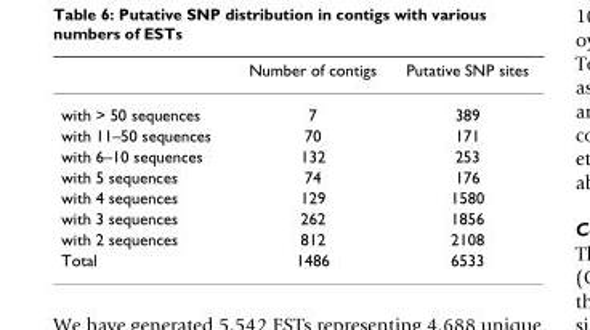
<table><thead><tr><td></td><td>Number of contigs</td><td>Putative SNP sites</td></tr></thead><tbody><tr><td>with &gt; 50 sequences</td><td>7</td><td>389</td></tr><tr><td>with 11–50 sequences</td><td>70</td><td>171</td></tr><tr><td>with 6–10 sequences</td><td>132</td><td>253</td></tr><tr><td>with 5 sequences</td><td>74</td><td>176</td></tr><tr><td>with 4 sequences</td><td>129</td><td>1580</td></tr><tr><td>with 3 sequences</td><td>262</td><td>1856</td></tr><tr><td>with 2 sequences</td><td>812</td><td>2108</td></tr><tr><td>Total</td><td>1486</td><td>6533</td></tr></tbody></table>